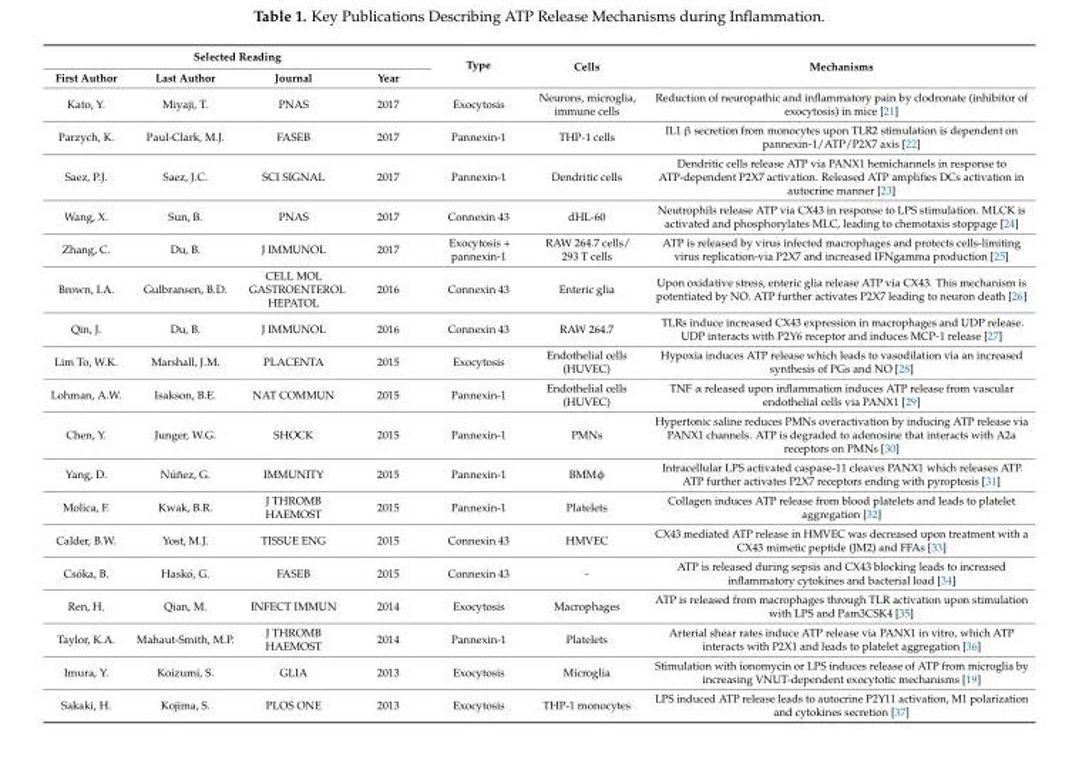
<table><thead><tr><td colspan="4">Selected Reading</td><td rowspan="2">Type</td><td rowspan="2">Cells</td><td rowspan="2">Mechanisms</td></tr><tr><td>First Author</td><td>Last Author</td><td>Journal</td><td>Year</td></tr></thead><tbody><tr><td>Kato, Y.</td><td>Miyaji, T.</td><td>PNAS</td><td>2017</td><td>Exocytosis</td><td>Neurons, microglia, immune cells</td><td>Reduction of neuropathic and inflammatory pain by clodronate (inhibitor of exocytosis) in mice [21]</td></tr><tr><td>Parzych, K.</td><td>Paul-Clark, M.J.</td><td>FASEB</td><td>2017</td><td>Pannexin-1</td><td>THP-1 cells</td><td>IL1 β secretion from monocytes upon TLR2 stimulation is dependent on pannexin-1/ATP/P2X7 axis [22]</td></tr><tr><td>Saez, P.J.</td><td>Saez, J.C.</td><td>SCI SIGNAL</td><td>2017</td><td>Pannexin-1</td><td>Dendritic cells</td><td>Dendritic cells release ATP via PANX1 hemichannels in response to ATP-dependent P2X7 activation. Released ATP amplifies DCs activation in autocrine manner [23]</td></tr><tr><td>Wang, X.</td><td>Sun, B.</td><td>PNAS</td><td>2017</td><td>Connexin 43</td><td>dHL-60</td><td>Neutrophils release ATP via CX43 in response to LPS stimulation. MLCK is activated and phosphorylates MLC, leading to chemotaxis stoppage [24]</td></tr><tr><td>Zhang, C.</td><td>Du, B.</td><td>J IMMUNOL</td><td>2017</td><td>Exocytosis + pannexin-1</td><td>RAW 264.7 cells/ 293 T cells</td><td>ATP is released by virus infected macrophages and protects cells-limiting virus replication-via P2X7 and increased IFNgamma production [25]</td></tr><tr><td>Brown, I.A.</td><td>Gulbransen, B.D.</td><td>CELL MOL GASTROENTEROL HEPATOL</td><td>2016</td><td>Connexin 43</td><td>Enteric glia</td><td>Upon oxidative stress, enteric glia release ATP via CX43. This mechanism is potentiated by NO. ATP further activates P2X7 leading to neuron death [26]</td></tr><tr><td>Qin, J.</td><td>Du, B.</td><td>J IMMUNOL</td><td>2016</td><td>Connexin 43</td><td>RAW 264.7</td><td>TLRs induce increased CX43 expression in macrophages and UDP release. UDP interacts with P2Y6 receptor and induces MCP-1 release [27]</td></tr><tr><td>Lim To, W.K.</td><td>Marshall, J.M.</td><td>PLACENTA</td><td>2015</td><td>Exocytosis</td><td>Endothelial cells (HUVEC)</td><td>Hypoxia induces ATP release which leads to vasodilation via an increased synthesis of PGs and NO [28]</td></tr><tr><td>Lohman, A.W.</td><td>Isakson, B.E.</td><td>NAT COMMUN</td><td>2015</td><td>Pannexin-1</td><td>Endothelial cells (HUVEC)</td><td>TNF α released upon inflammation induces ATP release from vascular endothelial cells via PANX1 [29]</td></tr><tr><td>Chen, Y.</td><td>Junger, W.G.</td><td>SHOCK</td><td>2015</td><td>Pannexin-1</td><td>PMNs</td><td>Hypertonic saline reduces PMNs overactivation by inducing ATP release via PANX1 channels. ATP is degraded to adenosine that interacts with A2a receptors on PMNs [30]</td></tr><tr><td>Yang, D.</td><td>Núñez, G.</td><td>IMMUNITY</td><td>2015</td><td>Pannexin-1</td><td>BMMφ</td><td>Intracellular LPS activated caspase-11 cleaves PANX1 which releases ATP. ATP further activates P2X7 receptors ending with pyroptosis [31]</td></tr><tr><td>Molica, F.</td><td>Kwak, B.R.</td><td>J THROMB HAEMOST</td><td>2015</td><td>Pannexin-1</td><td>Platelets</td><td>Collagen induces ATP release from blood platelets and leads to platelet aggregation [32]</td></tr><tr><td>Calder, B.W.</td><td>Yost, M.J.</td><td>TISSUE ENG</td><td>2015</td><td>Connexin 43</td><td>HMVEC</td><td>CX43 mediated ATP release in HMVEC was decreased upon treatment with a CX43 mimetic peptide (JM2) and FFAs [33]</td></tr><tr><td>Csóka, B.</td><td>Haskó, G.</td><td>FASEB</td><td>2015</td><td>Connexin 43</td><td>-</td><td>ATP is released during sepsis and CX43 blocking leads to increased inflammatory cytokines and bacterial load [34]</td></tr><tr><td>Ren, H.</td><td>Qian, M.</td><td>INFECT IMMUN</td><td>2014</td><td>Exocytosis</td><td>Macrophages</td><td>ATP is released from macrophages through TLR activation upon stimulation with LPS and Pam3CSK4 [35]</td></tr><tr><td>Taylor, K.A.</td><td>Mahaut-Smith, M.P.</td><td>J THROMB HAEMOST</td><td>2014</td><td>Pannexin-1</td><td>Platelets</td><td>Arterial shear rates induce ATP release via PANX1 in vitro, which ATP interacts with P2X1 and leads to platelet aggregation [36]</td></tr><tr><td>Imura, Y.</td><td>Koizumi, S.</td><td>GLIA</td><td>2013</td><td>Exocytosis</td><td>Microglia</td><td>Stimulation with ionomycin or LPS induces release of ATP from microglia by increasing VNUT-dependent exocytotic mechanisms [19]</td></tr><tr><td>Sakaki, H.</td><td>Kojima, S.</td><td>PLOS ONE</td><td>2013</td><td>Exocytosis</td><td>THP-1 monocytes</td><td>LPS induced ATP release leads to autocrine P2Y11 activation, M1 polarization and cytokines secretion [37]</td></tr></tbody></table>